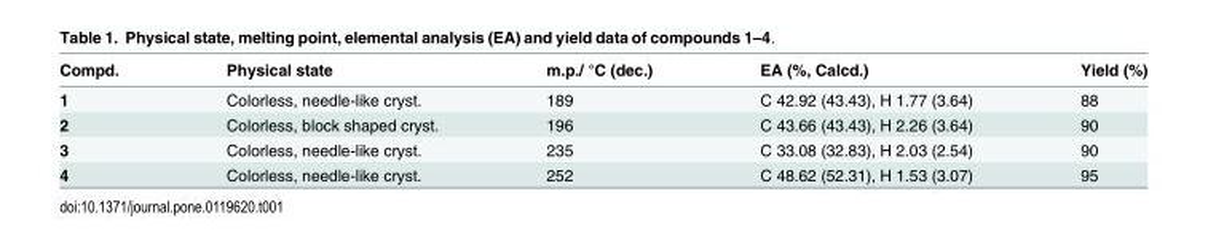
<table><thead><tr><td>Compd.</td><td>Physical state</td><td>m.p./ °C (dec.)</td><td>EA (%, Calcd.)</td><td>Yield (%)</td></tr></thead><tbody><tr><td>1</td><td>Colorless, needle-like cryst.</td><td>189</td><td>C 42.92 (43.43), H 1.77 (3.64)</td><td>88</td></tr><tr><td>2</td><td>Colorless, block shaped cryst.</td><td>196</td><td>C 43.66 (43.43), H 2.26 (3.64)</td><td>90</td></tr><tr><td>3</td><td>Colorless, needle-like cryst.</td><td>235</td><td>C 33.08 (32.83), H 2.03 (2.54)</td><td>90</td></tr><tr><td>4</td><td>Colorless, needle-like cryst.</td><td>252</td><td>C 48.62 (52.31), H 1.53 (3.07)</td><td>95</td></tr></tbody></table>